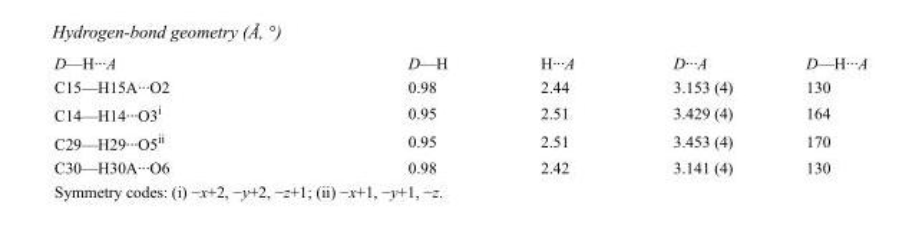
<table><tbody><tr><td>D—H···A</td><td>D—H</td><td>H···A</td><td>D···A</td><td>D—H···A</td></tr><tr><td>C15—H15A···O2</td><td>0.98</td><td>2.44</td><td>3.153 (4)</td><td>130</td></tr><tr><td>C14—H14···O3<sup>i</sup></td><td>0.95</td><td>2.51</td><td>3.429 (4)</td><td>164</td></tr><tr><td>C29—H29···O5<sup>ii</sup></td><td>0.95</td><td>2.51</td><td>3.453 (4)</td><td>170</td></tr><tr><td>C30—H30A···O6</td><td>0.98</td><td>2.42</td><td>3.141 (4)</td><td>130</td></tr></tbody></table>